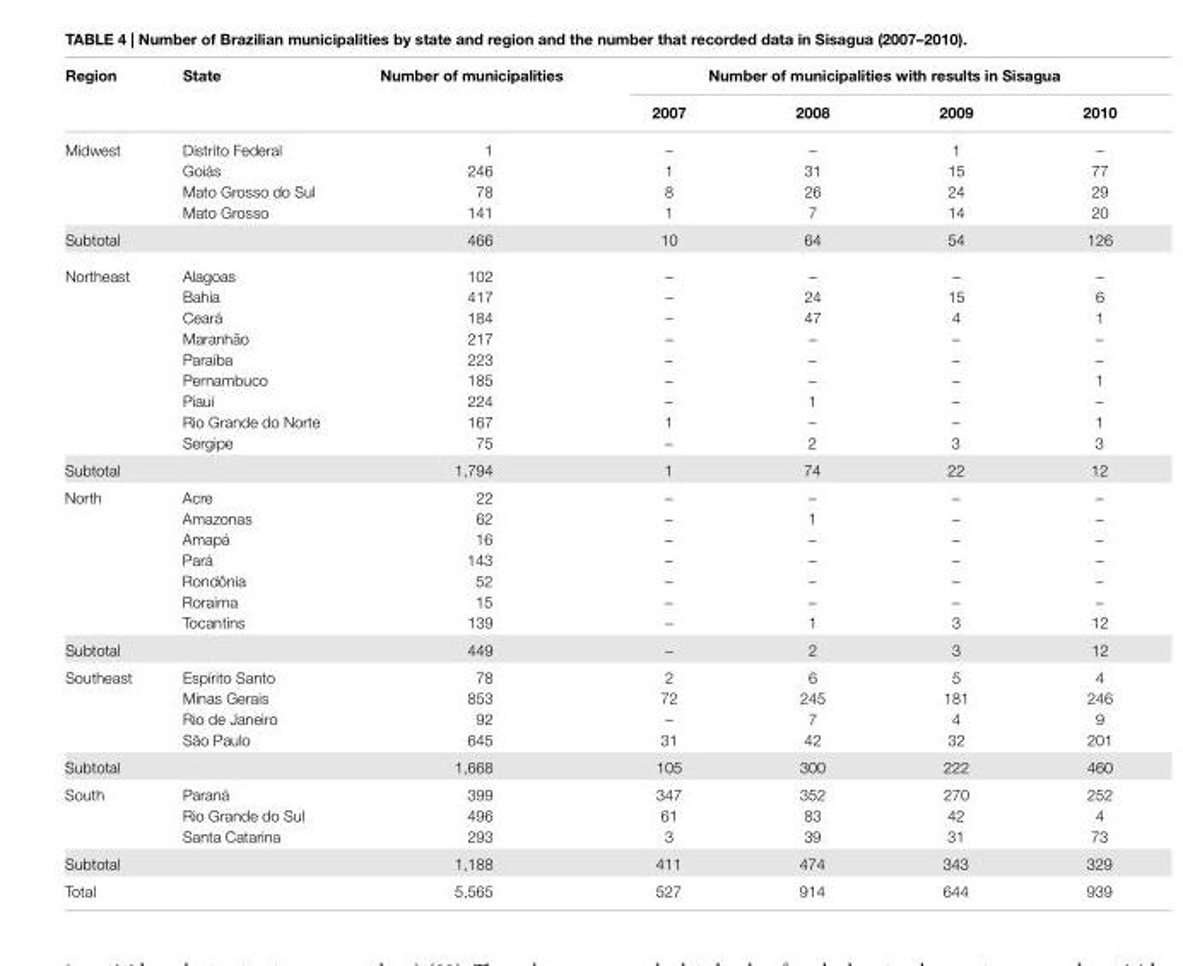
<table><thead><tr><td rowspan="2">region</td><td rowspan="2">state</td><td rowspan="2">number of municipalities</td><td colspan="4">number of municipalities with results in sisagua</td></tr><tr><td>2007</td><td>2008</td><td>2009</td><td>2010</td></tr></thead><tbody><tr><td rowspan="4">Midwest</td><td>Distrito Federal</td><td>1</td><td>–</td><td>–</td><td>1</td><td>–</td></tr><tr><td>Goiás</td><td>246</td><td>1</td><td>31</td><td>15</td><td>77</td></tr><tr><td>Mato Grosso do Sul</td><td>78</td><td>8</td><td>26</td><td>24</td><td>29</td></tr><tr><td>Mato Grosso</td><td>141</td><td>1</td><td>7</td><td>14</td><td>20</td></tr><tr><td colspan="2">Subtotal</td><td>466</td><td>10</td><td>64</td><td>54</td><td>126</td></tr><tr><td rowspan="9">Northeast</td><td>Alagoas</td><td>102</td><td>–</td><td>–</td><td>–</td><td>–</td></tr><tr><td>Bahia</td><td>417</td><td>–</td><td>24</td><td>15</td><td>6</td></tr><tr><td>Ceará</td><td>184</td><td>–</td><td>47</td><td>4</td><td>1</td></tr><tr><td>Maranhão</td><td>217</td><td>–</td><td>–</td><td>–</td><td>–</td></tr><tr><td>Paraíba</td><td>223</td><td>–</td><td>–</td><td>–</td><td>–</td></tr><tr><td>Pernambuco</td><td>185</td><td>–</td><td>–</td><td>–</td><td>1</td></tr><tr><td>Piauí</td><td>224</td><td>–</td><td>1</td><td>–</td><td>–</td></tr><tr><td>Rio Grande do Norte</td><td>167</td><td>1</td><td>–</td><td>–</td><td>1</td></tr><tr><td>Sergipe</td><td>75</td><td>–</td><td>2</td><td>3</td><td>3</td></tr><tr><td colspan="2">Subtotal</td><td>1,794</td><td>1</td><td>74</td><td>22</td><td>12</td></tr><tr><td rowspan="7">North</td><td>Acre</td><td>22</td><td>–</td><td>–</td><td>–</td><td>–</td></tr><tr><td>Amazonas</td><td>62</td><td>–</td><td>1</td><td>–</td><td>–</td></tr><tr><td>Amapá</td><td>16</td><td>–</td><td>–</td><td>–</td><td>–</td></tr><tr><td>Pará</td><td>143</td><td>–</td><td>–</td><td>–</td><td>–</td></tr><tr><td>Rondônia</td><td>52</td><td>–</td><td>–</td><td>–</td><td>–</td></tr><tr><td>Roraima</td><td>15</td><td>–</td><td>–</td><td>–</td><td>–</td></tr><tr><td>Tocantins</td><td>139</td><td>–</td><td>1</td><td>3</td><td>12</td></tr><tr><td colspan="2">Subtotal</td><td>449</td><td>–</td><td>2</td><td>3</td><td>12</td></tr><tr><td rowspan="4">Southeast</td><td>Espírito Santo</td><td>78</td><td>2</td><td>6</td><td>5</td><td>4</td></tr><tr><td>Minas Gerais</td><td>853</td><td>72</td><td>245</td><td>181</td><td>246</td></tr><tr><td>Rio de Janeiro</td><td>92</td><td>–</td><td>7</td><td>4</td><td>9</td></tr><tr><td>São Paulo</td><td>645</td><td>31</td><td>42</td><td>32</td><td>201</td></tr><tr><td colspan="2">Subtotal</td><td>1,668</td><td>105</td><td>300</td><td>222</td><td>460</td></tr><tr><td rowspan="3">South</td><td>Paraná</td><td>399</td><td>347</td><td>352</td><td>270</td><td>252</td></tr><tr><td>Rio Grande do Sul</td><td>496</td><td>61</td><td>83</td><td>42</td><td>4</td></tr><tr><td>Santa Catarina</td><td>293</td><td>3</td><td>39</td><td>31</td><td>73</td></tr><tr><td colspan="2">Subtotal</td><td>1,188</td><td>411</td><td>474</td><td>343</td><td>329</td></tr><tr><td colspan="2">Total</td><td>5,565</td><td>527</td><td>914</td><td>644</td><td>939</td></tr></tbody></table>